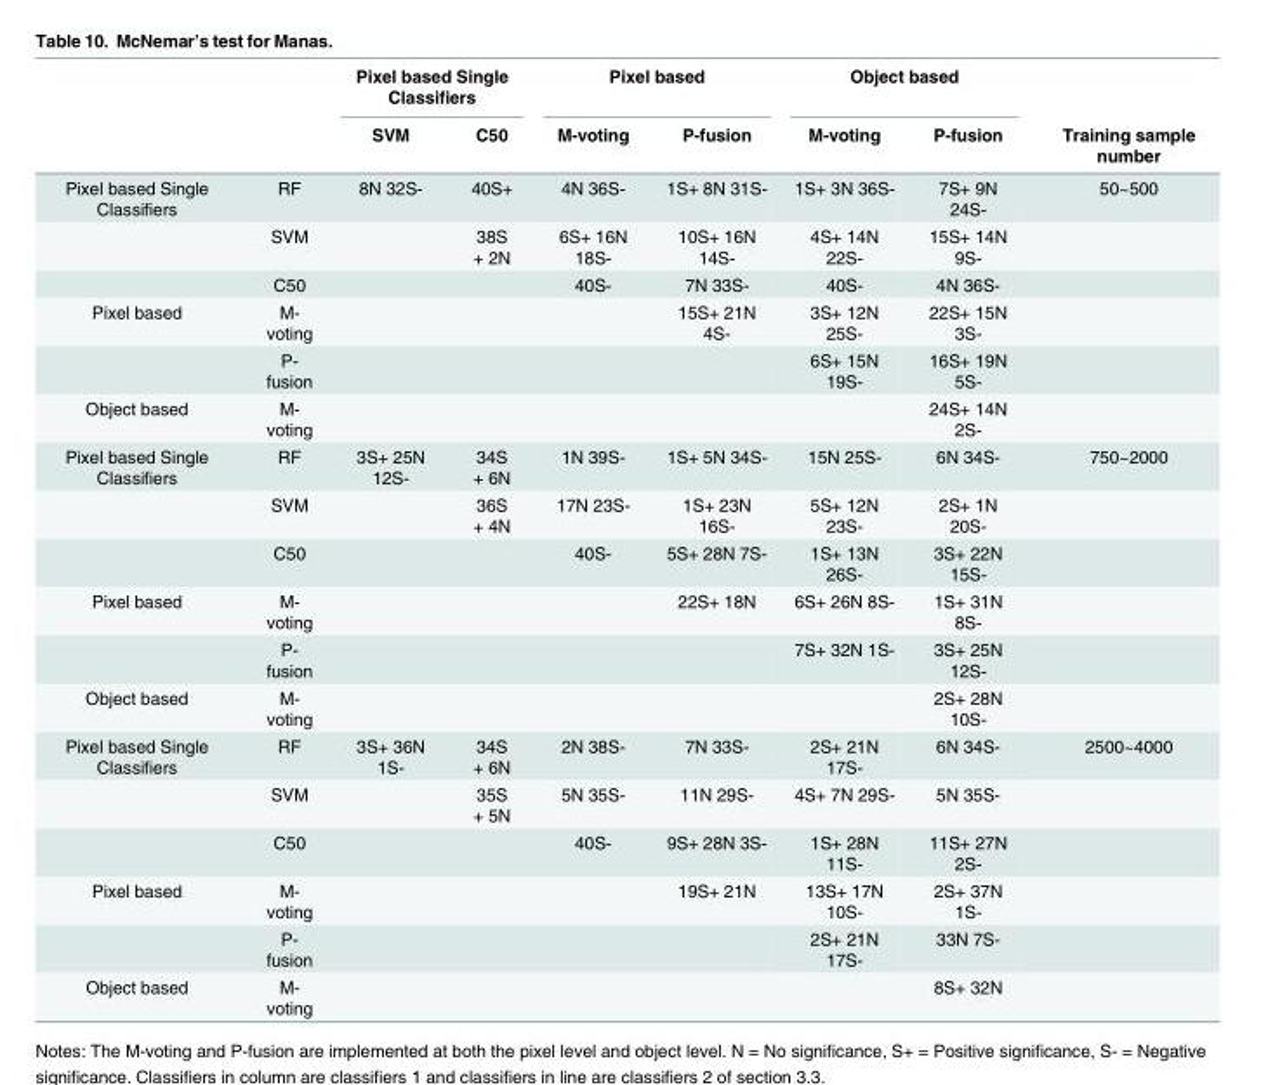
<table><thead><tr><td rowspan="2"></td><td rowspan="2"></td><td colspan="2">Pixel based Single Classifiers</td><td colspan="2">Pixel based</td><td colspan="2">Object based</td><td rowspan="2">Training sample number</td></tr><tr><td>SVM</td><td>C50</td><td>M-voting</td><td>P-fusion</td><td>M-voting</td><td>P-fusion</td></tr></thead><tbody><tr><td rowspan="3">Pixel based Single Classifiers</td><td>RF</td><td>8N 32S-</td><td>40S+</td><td>4N 36S-</td><td>1S+ 8N 31S-</td><td>1S+ 3N 36S-</td><td>7S+ 9N 24S-</td><td>50~500</td></tr><tr><td>SVM</td><td></td><td>38S + 2N</td><td>6S+ 16N 18S-</td><td>10S+ 16N 14S-</td><td>4S+ 14N 22S-</td><td>15S+ 14N 9S-</td><td></td></tr><tr><td>C50</td><td></td><td></td><td>40S-</td><td>7N 33S-</td><td>40S-</td><td>4N 36S-</td><td></td></tr><tr><td rowspan="2">Pixel based</td><td>M- voting</td><td></td><td></td><td></td><td>15S+ 21N 4S-</td><td>3S+ 12N 25S-</td><td>22S+ 15N 3S-</td><td></td></tr><tr><td>P- fusion</td><td></td><td></td><td></td><td></td><td>6S+ 15N 19S-</td><td>16S+ 19N 5S-</td><td></td></tr><tr><td>Object based</td><td>M- voting</td><td></td><td></td><td></td><td></td><td></td><td>24S+ 14N 2S-</td><td></td></tr><tr><td rowspan="3">Pixel based Single Classifiers</td><td>RF</td><td>3S+ 25N 12S-</td><td>34S + 6N</td><td>1N 39S-</td><td>1S+ 5N 34S-</td><td>15N 25S-</td><td>6N 34S-</td><td>750~2000</td></tr><tr><td>SVM</td><td></td><td>36S + 4N</td><td>17N 23S-</td><td>1S+ 23N 16S-</td><td>5S+ 12N 23S-</td><td>2S+ 1N 20S-</td><td></td></tr><tr><td>C50</td><td></td><td></td><td>40S-</td><td>5S+ 28N 7S-</td><td>1S+ 13N 26S-</td><td>3S+ 22N 15S-</td><td></td></tr><tr><td rowspan="2">Pixel based</td><td>M- voting</td><td></td><td></td><td></td><td>22S+ 18N</td><td>6S+ 26N 8S-</td><td>1S+ 31N 8S-</td><td></td></tr><tr><td>P- fusion</td><td></td><td></td><td></td><td></td><td>7S+ 32N 1S-</td><td>3S+ 25N 12S-</td><td></td></tr><tr><td>Object based</td><td>M- voting</td><td></td><td></td><td></td><td></td><td></td><td>2S+ 28N 10S-</td><td></td></tr><tr><td rowspan="3">Pixel based Single Classifiers</td><td>RF</td><td>3S+ 36N 1S-</td><td>34S + 6N</td><td>2N 38S-</td><td>7N 33S-</td><td>2S+ 21N 17S-</td><td>6N 34S-</td><td>2500~4000</td></tr><tr><td>SVM</td><td></td><td>35S + 5N</td><td>5N 35S-</td><td>11N 29S-</td><td>4S+ 7N 29S-</td><td>5N 35S-</td><td></td></tr><tr><td>C50</td><td></td><td></td><td>40S-</td><td>9S+ 28N 3S-</td><td>1S+ 28N 11S-</td><td>11S+ 27N 2S-</td><td></td></tr><tr><td rowspan="2">Pixel based</td><td>M- voting</td><td></td><td></td><td></td><td>19S+ 21N</td><td>13S+ 17N 10S-</td><td>2S+ 37N 1S-</td><td></td></tr><tr><td>P- fusion</td><td></td><td></td><td></td><td></td><td>2S+ 21N 17S-</td><td>33N 7S-</td><td></td></tr><tr><td>Object based</td><td>M- voting</td><td></td><td></td><td></td><td></td><td></td><td>8S+ 32N</td><td></td></tr></tbody></table>